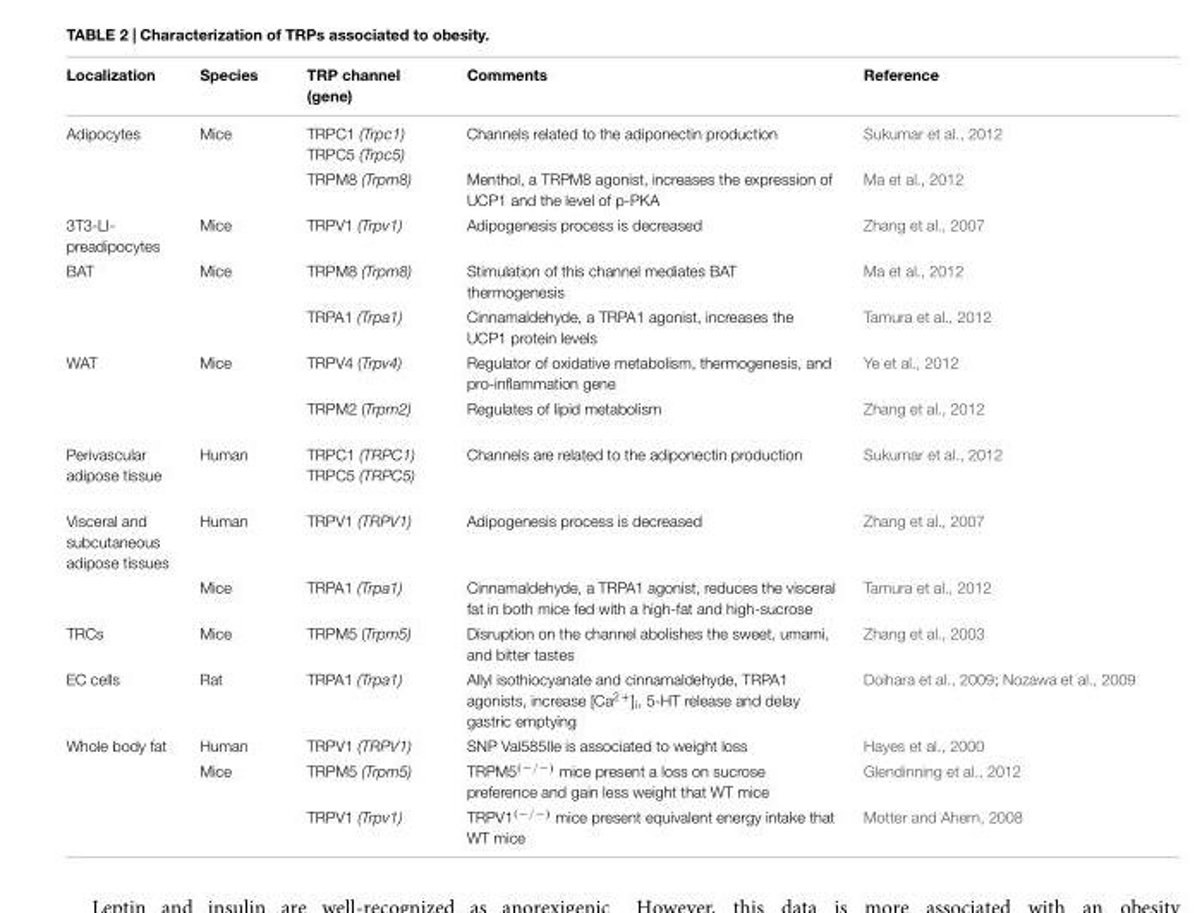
<table><thead><tr><td>Localization</td><td>Species</td><td>TRP channel (gene)</td><td>Comments</td><td>Reference</td></tr></thead><tbody><tr><td rowspan="2">Adipocytes</td><td>Mice</td><td>TRPC1 (Trpc1) TRPC5 (Trpc5)</td><td>Channels related to the adiponectin production</td><td>Sukumar et al., 2012</td></tr><tr><td></td><td>TRPM8 (Trpm8)</td><td>Menthol, a TRPM8 agonist, increases the expression of UCP1 and the level of p-PKA</td><td>Ma et al., 2012</td></tr><tr><td>3T3-LI- preadipocytes</td><td>Mice</td><td>TRPV1 (Trpv1)</td><td>Adipogenesis process is decreased</td><td>Zhang et al., 2007</td></tr><tr><td rowspan="2">BAT</td><td>Mice</td><td>TRPM8 (Trpm8)</td><td>Stimulation of this channel mediates BAT thermogenesis</td><td>Ma et al., 2012</td></tr><tr><td></td><td>TRPA1 (Trpa1)</td><td>Cinnamaldehyde, a TRPA1 agonist, increases the UCP1 protein levels</td><td>Tamura et al., 2012</td></tr><tr><td rowspan="2">WAT</td><td>Mice</td><td>TRPV4 (Trpv4)</td><td>Regulator of oxidative metabolism, thermogenesis, and pro-inflammation gene</td><td>Ye et al., 2012</td></tr><tr><td></td><td>TRPM2 (Trpm2)</td><td>Regulates of lipid metabolism</td><td>Zhang et al., 2012</td></tr><tr><td>Perivascular adipose tissue</td><td>Human</td><td>TRPC1 (TRPC1) TRPC5 (TRPC5)</td><td>Channels are related to the adiponectin production</td><td>Sukumar et al., 2012</td></tr><tr><td rowspan="2">Visceral and subcutaneous adipose tissues</td><td>Human</td><td>TRPV1 (TRPV1)</td><td>Adipogenesis process is decreased</td><td>Zhang et al., 2007</td></tr><tr><td>Mice</td><td>TRPA1 (Trpa1)</td><td>Cinnamaldehyde, a TRPA1 agonist, reduces the visceral fat in both mice fed with a high-fat and high-sucrose</td><td>Tamura et al., 2012</td></tr><tr><td>TRCs</td><td>Mice</td><td>TRPM5 (Trpm5)</td><td>Disruption on the channel abolishes the sweet, umami, and bitter tastes</td><td>Zhang et al., 2003</td></tr><tr><td>EC cells</td><td>Rat</td><td>TRPA1 (Trpa1)</td><td>Allyl isothiocyanate and cinnamaldehyde, TRPA1 agonists, increase [Ca<sup>2+</sup>]<sub>i</sub>, 5-HT release and delay gastric emptying</td><td>Doihara et al., 2009; Nozawa et al., 2009</td></tr><tr><td rowspan="3">Whole body fat</td><td>Human</td><td>TRPV1 (TRPV1)</td><td>SNP Val585IIe is associated to weight loss</td><td>Hayes et al., 2000</td></tr><tr><td>Mice</td><td>TRPM5 (Trpm5)</td><td>TRPM5<sup>(−/−)</sup> mice present a loss on sucrose preference and gain less weight that WT mice</td><td>Glendinning et al., 2012</td></tr><tr><td></td><td>TRPV1 (Trpv1)</td><td>TRPV1<sup>(−/−)</sup> mice present equivalent energy intake that WT mice</td><td>Motter and Ahern, 2008</td></tr></tbody></table>